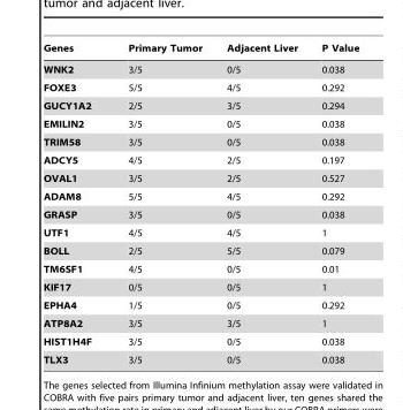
<table><thead><tr><td>Genes</td><td>Primary Tumor</td><td>Adjacent Liver</td><td>P Value</td></tr></thead><tbody><tr><td>WNK2</td><td>3/5</td><td>0/5</td><td>0.038</td></tr><tr><td>FOXE3</td><td>5/5</td><td>4/5</td><td>0.292</td></tr><tr><td>GUCY1A2</td><td>2/5</td><td>3/5</td><td>0.294</td></tr><tr><td>EMILIN2</td><td>3/5</td><td>0/5</td><td>0.038</td></tr><tr><td>TRIM58</td><td>3/5</td><td>0/5</td><td>0.038</td></tr><tr><td>ADCY5</td><td>4/5</td><td>2/5</td><td>0.197</td></tr><tr><td>OVAL1</td><td>3/5</td><td>2/5</td><td>0.527</td></tr><tr><td>ADAM8</td><td>5/5</td><td>4/5</td><td>0.292</td></tr><tr><td>GRASP</td><td>3/5</td><td>0/5</td><td>0.038</td></tr><tr><td>UTF1</td><td>4/5</td><td>4/5</td><td>1</td></tr><tr><td>BOLL</td><td>2/5</td><td>5/5</td><td>0.079</td></tr><tr><td>TM6SF1</td><td>4/5</td><td>0/5</td><td>0.01</td></tr><tr><td>KIF17</td><td>0/5</td><td>0/5</td><td>1</td></tr><tr><td>EPHA4</td><td>1/5</td><td>0/5</td><td>0.292</td></tr><tr><td>ATP8A2</td><td>3/5</td><td>3/5</td><td>1</td></tr><tr><td>HIST1H4F</td><td>3/5</td><td>0/5</td><td>0.038</td></tr><tr><td>TLX3</td><td>3/5</td><td>0/5</td><td>0.038</td></tr></tbody></table>